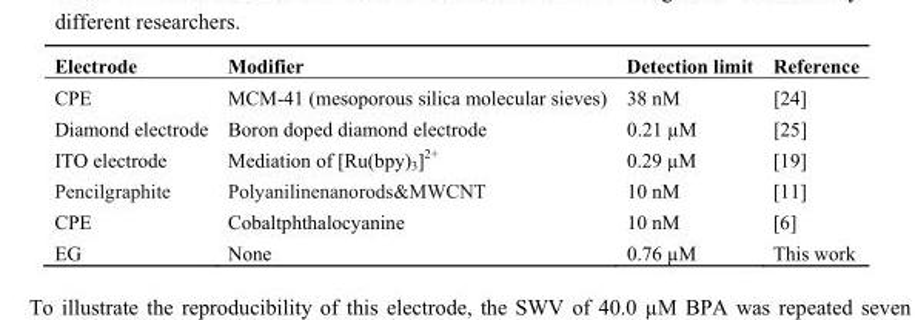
<table><thead><tr><td>Electrode</td><td>Modifier</td><td>Detection limit</td><td>Reference</td></tr></thead><tbody><tr><td>CPE</td><td>MCM-41 (mesoporous silica molecular sieves)</td><td>38 nM</td><td>[24]</td></tr><tr><td>Diamond electrode</td><td>Boron doped diamond electrode</td><td>0.21 µM</td><td>[25]</td></tr><tr><td>ITO electrode</td><td>Mediation of [Ru(bpy)<sub>3</sub>]<sup>2+</sup></td><td>0.29 µM</td><td>[19]</td></tr><tr><td>Pencilgraphite</td><td>Polyanilinenanorods&amp;MWCNT</td><td>10 nM</td><td>[11]</td></tr><tr><td>CPE</td><td>Cobaltphthalocyanine</td><td>10 nM</td><td>[6]</td></tr><tr><td>EG</td><td>None</td><td>0.76 µM</td><td>This work</td></tr></tbody></table>